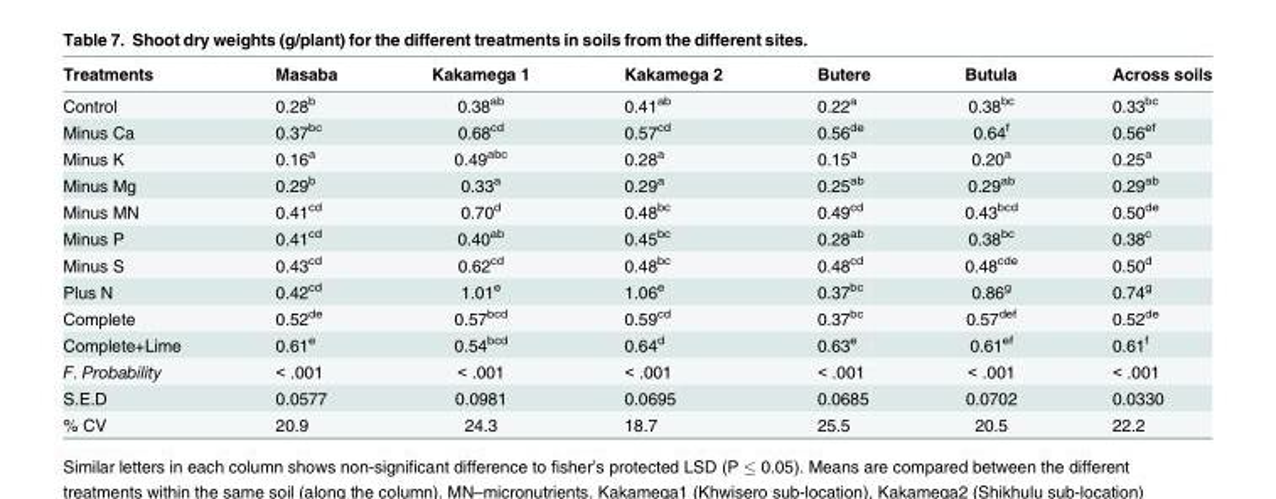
<table><thead><tr><td>Treatments</td><td>Masaba</td><td>Kakamega 1</td><td>Kakamega 2</td><td>Butere</td><td>Butula</td><td>Across soils</td></tr></thead><tbody><tr><td>Control</td><td>0.28<sup>b</sup></td><td>0.38<sup>ab</sup></td><td>0.41<sup>ab</sup></td><td>0.22<sup>a</sup></td><td>0.38<sup>bc</sup></td><td>0.33<sup>bc</sup></td></tr><tr><td>Minus Ca</td><td>0.37<sup>bc</sup></td><td>0.68<sup>cd</sup></td><td>0.57<sup>cd</sup></td><td>0.56<sup>de</sup></td><td>0.64<sup>f</sup></td><td>0.56<sup>ef</sup></td></tr><tr><td>Minus K</td><td>0.16<sup>a</sup></td><td>0.49<sup>abc</sup></td><td>0.28<sup>a</sup></td><td>0.15<sup>a</sup></td><td>0.20<sup>a</sup></td><td>0.25<sup>a</sup></td></tr><tr><td>Minus Mg</td><td>0.29<sup>b</sup></td><td>0.33<sup>a</sup></td><td>0.29<sup>a</sup></td><td>0.25<sup>ab</sup></td><td>0.29<sup>ab</sup></td><td>0.29<sup>ab</sup></td></tr><tr><td>Minus MN</td><td>0.41<sup>cd</sup></td><td>0.70<sup>d</sup></td><td>0.48<sup>bc</sup></td><td>0.49<sup>cd</sup></td><td>0.43<sup>bcd</sup></td><td>0.50<sup>de</sup></td></tr><tr><td>Minus P</td><td>0.41<sup>cd</sup></td><td>0.40<sup>ab</sup></td><td>0.45<sup>bc</sup></td><td>0.28<sup>ab</sup></td><td>0.38<sup>bc</sup></td><td>0.38<sup>c</sup></td></tr><tr><td>Minus S</td><td>0.43<sup>cd</sup></td><td>0.62<sup>cd</sup></td><td>0.48<sup>bc</sup></td><td>0.48<sup>cd</sup></td><td>0.48<sup>cde</sup></td><td>0.50<sup>d</sup></td></tr><tr><td>Plus N</td><td>0.42<sup>cd</sup></td><td>1.01<sup>e</sup></td><td>1.06<sup>e</sup></td><td>0.37<sup>bc</sup></td><td>0.86<sup>g</sup></td><td>0.74<sup>g</sup></td></tr><tr><td>Complete</td><td>0.52<sup>de</sup></td><td>0.57<sup>bcd</sup></td><td>0.59<sup>cd</sup></td><td>0.37<sup>bc</sup></td><td>0.57<sup>def</sup></td><td>0.52<sup>de</sup></td></tr><tr><td>Complete+Lime</td><td>0.61<sup>e</sup></td><td>0.54<sup>bcd</sup></td><td>0.64<sup>d</sup></td><td>0.63<sup>e</sup></td><td>0.61<sup>ef</sup></td><td>0.61<sup>f</sup></td></tr><tr><td>F. Probability</td><td>&lt; .001</td><td>&lt; .001</td><td>&lt; .001</td><td>&lt; .001</td><td>&lt; .001</td><td>&lt; .001</td></tr><tr><td>S.E.D</td><td>0.0577</td><td>0.0981</td><td>0.0695</td><td>0.0685</td><td>0.0702</td><td>0.0330</td></tr><tr><td>% CV</td><td>20.9</td><td>24.3</td><td>18.7</td><td>25.5</td><td>20.5</td><td>22.2</td></tr></tbody></table>